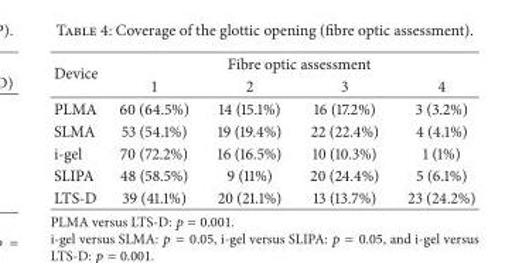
<table><thead><tr><td rowspan="2">Device</td><td colspan="4">Fibre optic assessment</td></tr><tr><td>1</td><td>2</td><td>3</td><td>4</td></tr></thead><tbody><tr><td>PLMA</td><td>60 (64.5%)</td><td>14 (15.1%)</td><td>16 (17.2%)</td><td>3 (3.2%)</td></tr><tr><td>SLMA</td><td>53 (54.1%)</td><td>19 (19.4%)</td><td>22 (22.4%)</td><td>4 (4.1%)</td></tr><tr><td>i-gel</td><td>70 (72.2%)</td><td>16 (16.5%)</td><td>10 (10.3%)</td><td>1 (1%)</td></tr><tr><td>SLIPA</td><td>48 (58.5%)</td><td>9 (11%)</td><td>20 (24.4%)</td><td>5 (6.1%)</td></tr><tr><td>LTS-D</td><td>39 (41.1%)</td><td>20 (21.1%)</td><td>13 (13.7%)</td><td>23 (24.2%)</td></tr></tbody></table>